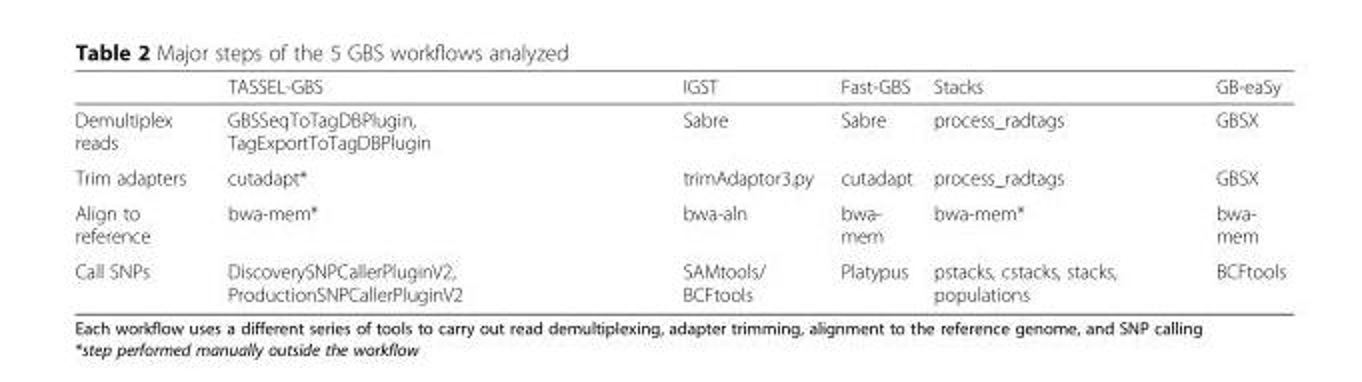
<table><thead><tr><td></td><td>TASSEL-GBS</td><td>IGST</td><td>Fast-GBS</td><td>Stacks</td><td>GB-eaSy</td></tr></thead><tbody><tr><td>Demultiplex reads</td><td>GBSSeqToTagDBPlugin, TagExportToTagDBPlugin</td><td>Sabre</td><td>Sabre</td><td>process_radtags</td><td>GBSX</td></tr><tr><td>Trim adapters</td><td>cutadapt*</td><td>trimAdaptor3.py</td><td>cutadapt</td><td>process_radtags</td><td>GBSX</td></tr><tr><td>Align to reference</td><td>bwa-mem*</td><td>bwa-aln</td><td>bwa- mem</td><td>bwa-mem*</td><td>bwa- mem</td></tr><tr><td>Call SNPs</td><td>DiscoverySNPCallerPluginV2, ProductionSNPCallerPluginV2</td><td>SAMtools/ BCFtools</td><td>Platypus</td><td>pstacks, cstacks, stacks, populations</td><td>BCFtools</td></tr></tbody></table>